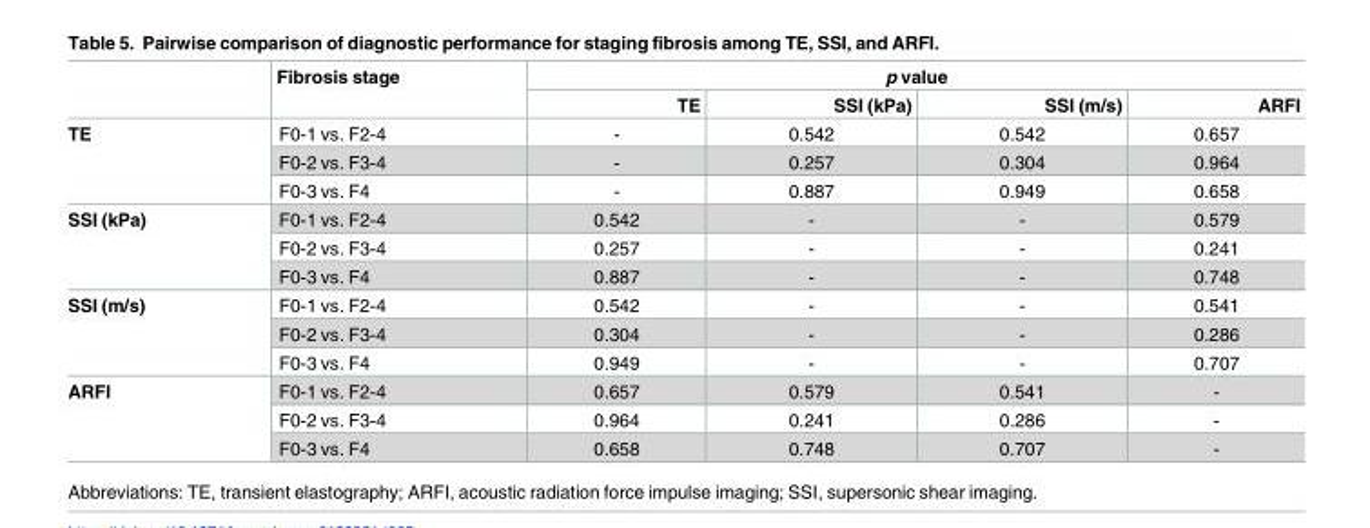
<table><thead><tr><td rowspan="2"></td><td rowspan="2">Fibrosis stage</td><td colspan="4">p value</td></tr><tr><td>TE</td><td>SSI (kPa)</td><td>SSI (m/s)</td><td>ARFI</td></tr></thead><tbody><tr><td rowspan="3">TE</td><td>F0-1 vs. F2-4</td><td>-</td><td>0.542</td><td>0.542</td><td>0.657</td></tr><tr><td>F0-2 vs. F3-4</td><td>-</td><td>0.257</td><td>0.304</td><td>0.964</td></tr><tr><td>F0-3 vs. F4</td><td>-</td><td>0.887</td><td>0.949</td><td>0.658</td></tr><tr><td rowspan="3">SSI (kPa)</td><td>F0-1 vs. F2-4</td><td>0.542</td><td>-</td><td>-</td><td>0.579</td></tr><tr><td>F0-2 vs. F3-4</td><td>0.257</td><td>-</td><td>-</td><td>0.241</td></tr><tr><td>F0-3 vs. F4</td><td>0.887</td><td>-</td><td>-</td><td>0.748</td></tr><tr><td rowspan="3">SSI (m/s)</td><td>F0-1 vs. F2-4</td><td>0.542</td><td>-</td><td>-</td><td>0.541</td></tr><tr><td>F0-2 vs. F3-4</td><td>0.304</td><td>-</td><td>-</td><td>0.286</td></tr><tr><td>F0-3 vs. F4</td><td>0.949</td><td>-</td><td>-</td><td>0.707</td></tr><tr><td rowspan="3">ARFI</td><td>F0-1 vs. F2-4</td><td>0.657</td><td>0.579</td><td>0.541</td><td>-</td></tr><tr><td>F0-2 vs. F3-4</td><td>0.964</td><td>0.241</td><td>0.286</td><td>-</td></tr><tr><td>F0-3 vs. F4</td><td>0.658</td><td>0.748</td><td>0.707</td><td>-</td></tr></tbody></table>